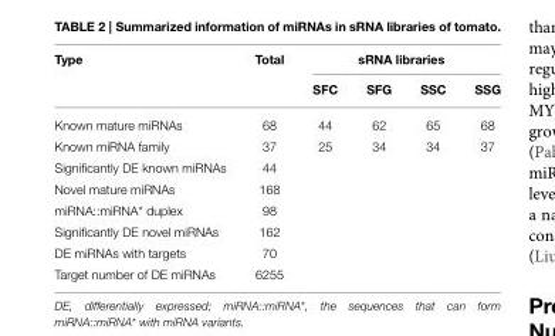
<table><thead><tr><td rowspan="2">Type</td><td rowspan="2">Total</td><td colspan="4">sRNA libraries</td></tr><tr><td>SFC</td><td>SFG</td><td>SSC</td><td>SSG</td></tr></thead><tbody><tr><td>Known mature miRNAs</td><td>68</td><td>44</td><td>62</td><td>65</td><td>68</td></tr><tr><td>Known miRNA family</td><td>37</td><td>25</td><td>34</td><td>34</td><td>37</td></tr><tr><td>Significantly DE known miRNAs</td><td>44</td><td></td><td></td><td></td><td></td></tr><tr><td>Novel mature miRNAs</td><td>168</td><td></td><td></td><td></td><td></td></tr><tr><td>miRNA::miRNA* duplex</td><td>98</td><td></td><td></td><td></td><td></td></tr><tr><td>Significantly DE novel miRNAs</td><td>162</td><td></td><td></td><td></td><td></td></tr><tr><td>DE miRNAs with targets</td><td>70</td><td></td><td></td><td></td><td></td></tr><tr><td>Target number of DE miRNAs</td><td>6255</td><td></td><td></td><td></td><td></td></tr></tbody></table>